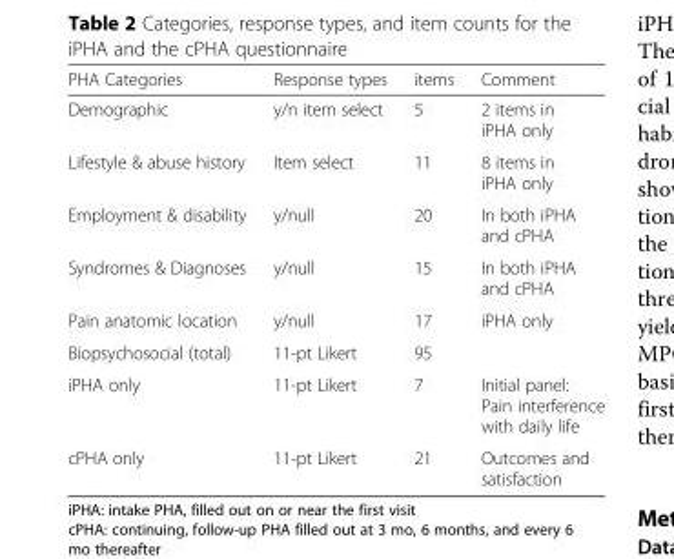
<table><thead><tr><td>PHA Categories</td><td>Response types</td><td>items</td><td>Comment</td></tr></thead><tbody><tr><td>Demographic</td><td>y/n item select</td><td>5</td><td>2 items in iPHA only</td></tr><tr><td>Lifestyle &amp; abuse history</td><td>Item select</td><td>11</td><td>8 items in iPHA only</td></tr><tr><td>Employment &amp; disability</td><td>y/null</td><td>20</td><td>In both iPHA and cPHA</td></tr><tr><td>Syndromes &amp; Diagnoses</td><td>y/null</td><td>15</td><td>In both iPHA and cPHA</td></tr><tr><td>Pain anatomic location</td><td>y/null</td><td>17</td><td>iPHA only</td></tr><tr><td>Biopsychosocial (total)</td><td>11-pt Likert</td><td>95</td><td></td></tr><tr><td>iPHA only</td><td>11-pt Likert</td><td>7</td><td>Initial panel: Pain interference with daily life</td></tr><tr><td>cPHA only</td><td>11-pt Likert</td><td>21</td><td>Outcomes and satisfaction</td></tr></tbody></table>